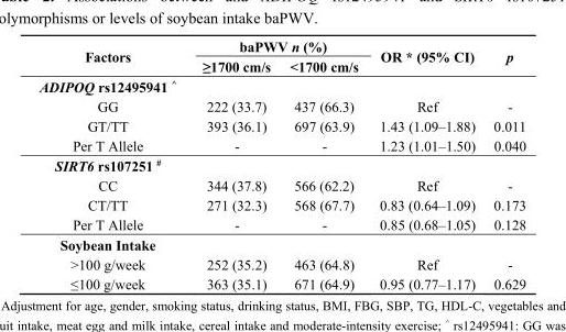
<table><thead><tr><td rowspan="2">Factors</td><td colspan="2">baPWV n (%)</td><td rowspan="2">OR * (95% CI)</td><td rowspan="2">p</td></tr><tr><td>≥1700 cm/s</td><td>&lt;1700 cm/s</td></tr></thead><tbody><tr><td colspan="5">ADIPOQ rs12495941 <sup>^</sup></td></tr><tr><td>GG</td><td>222 (33.7)</td><td>437 (66.3)</td><td>Ref</td><td>-</td></tr><tr><td>GT/TT</td><td>393 (36.1)</td><td>697 (63.9)</td><td>1.43 (1.09–1.88)</td><td>0.011</td></tr><tr><td>Per T Allele</td><td>-</td><td>-</td><td>1.23 (1.01–1.50)</td><td>0.040</td></tr><tr><td colspan="5">SIRT6 rs107251 <sup>#</sup></td></tr><tr><td>CC</td><td>344 (37.8)</td><td>566 (62.2)</td><td>Ref</td><td>-</td></tr><tr><td>CT/TT</td><td>271 (32.3)</td><td>568 (67.7)</td><td>0.83 (0.64–1.09)</td><td>0.173</td></tr><tr><td>Per T Allele</td><td>-</td><td>-</td><td>0.85 (0.68–1.05)</td><td>0.128</td></tr><tr><td colspan="5">Soybean Intake</td></tr><tr><td>&gt;100 g/week</td><td>252 (35.2)</td><td>463 (64.8)</td><td>Ref</td><td>-</td></tr><tr><td>≤100 g/week</td><td>363 (35.1)</td><td>671 (64.9)</td><td>0.95 (0.77–1.17)</td><td>0.629</td></tr></tbody></table>